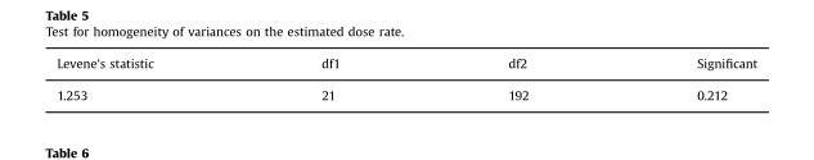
<table><thead><tr><td>Levene&#x27;s statistic</td><td>df1</td><td>df2</td><td>Significant</td></tr></thead><tbody><tr><td>1.253</td><td>21</td><td>192</td><td>0.212</td></tr></tbody></table>